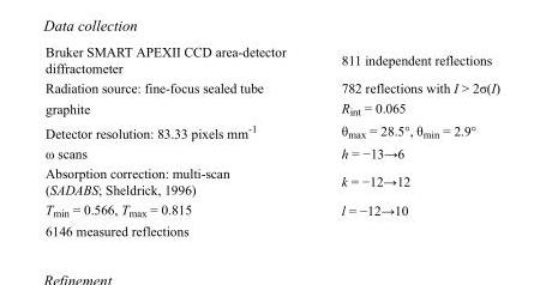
<table><tbody><tr><td>Bruker SMART APEXII CCD area-detector diffractometer</td><td>811 independent reflections</td></tr><tr><td>Radiation source: fine-focus sealed tube</td><td>782 reflections with I &gt; 2σ(I)</td></tr><tr><td>graphite</td><td>R<sub>int</sub> = 0.065</td></tr><tr><td>Detector resolution: 83.33 pixels mm<sup>-1</sup></td><td>θ<sub>max</sub> = 28.5°, θ<sub>min</sub> = 2.9°</td></tr><tr><td>ω scans</td><td>h = −13→6</td></tr><tr><td>Absorption correction: multi-scan (SADABS; Sheldrick, 1996)</td><td>k = −12→12</td></tr><tr><td>T<sub>min</sub> = 0.566, T<sub>max</sub> = 0.815</td><td>l = −12→10</td></tr><tr><td>6146 measured reflections</td><td></td></tr></tbody></table>